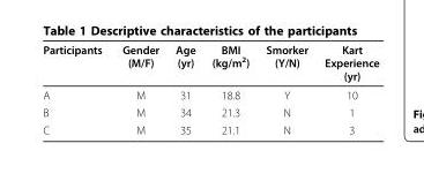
<table><thead><tr><td>Participants</td><td>Gender (M/F)</td><td>Age (yr)</td><td>BMI (kg/m<sup>2</sup>)</td><td>Smorker (Y/N)</td><td>Kart Experience (yr)</td></tr></thead><tbody><tr><td>A</td><td>M</td><td>31</td><td>18.8</td><td>Y</td><td>10</td></tr><tr><td>B</td><td>M</td><td>34</td><td>21.3</td><td>N</td><td>1</td></tr><tr><td>C</td><td>M</td><td>35</td><td>21.1</td><td>N</td><td>3</td></tr></tbody></table>